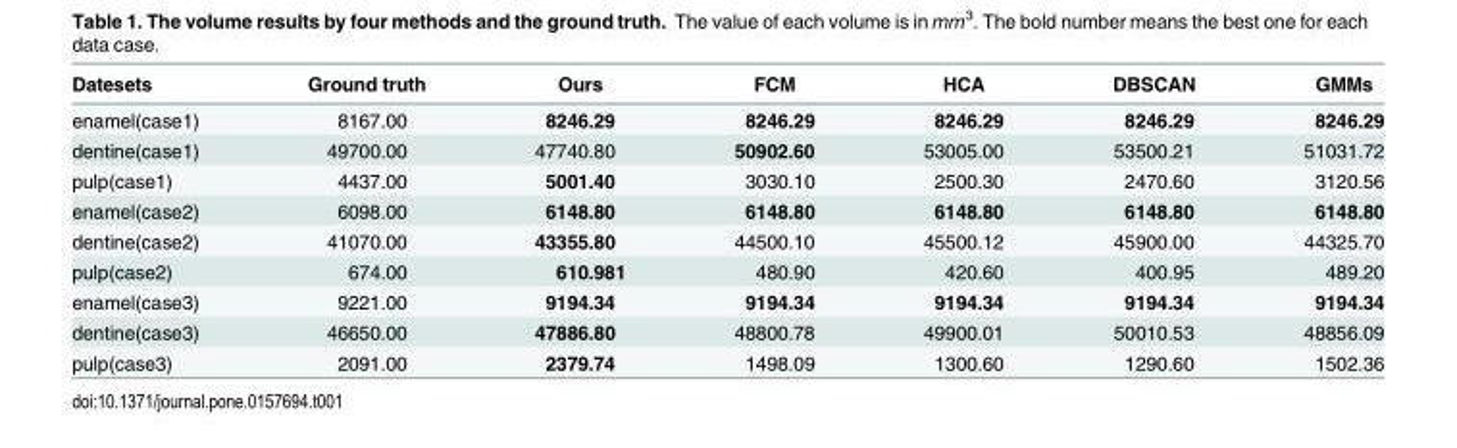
<table><thead><tr><td>Datesets</td><td>Ground truth</td><td>Ours</td><td>FCM</td><td>HCA</td><td>DBSCAN</td><td>GMMs</td></tr></thead><tbody><tr><td>enamel(case1)</td><td>8167.00</td><td>8246.29</td><td>8246.29</td><td>8246.29</td><td>8246.29</td><td>8246.29</td></tr><tr><td>dentine(case1)</td><td>49700.00</td><td>47740.80</td><td>50902.60</td><td>53005.00</td><td>53500.21</td><td>51031.72</td></tr><tr><td>pulp(case1)</td><td>4437.00</td><td>5001.40</td><td>3030.10</td><td>2500.30</td><td>2470.60</td><td>3120.56</td></tr><tr><td>enamel(case2)</td><td>6098.00</td><td>6148.80</td><td>6148.80</td><td>6148.80</td><td>6148.80</td><td>6148.80</td></tr><tr><td>dentine(case2)</td><td>41070.00</td><td>43355.80</td><td>44500.10</td><td>45500.12</td><td>45900.00</td><td>44325.70</td></tr><tr><td>pulp(case2)</td><td>674.00</td><td>610.981</td><td>480.90</td><td>420.60</td><td>400.95</td><td>489.20</td></tr><tr><td>enamel(case3)</td><td>9221.00</td><td>9194.34</td><td>9194.34</td><td>9194.34</td><td>9194.34</td><td>9194.34</td></tr><tr><td>dentine(case3)</td><td>46650.00</td><td>47886.80</td><td>48800.78</td><td>49900.01</td><td>50010.53</td><td>48856.09</td></tr><tr><td>pulp(case3)</td><td>2091.00</td><td>2379.74</td><td>1498.09</td><td>1300.60</td><td>1290.60</td><td>1502.36</td></tr></tbody></table>